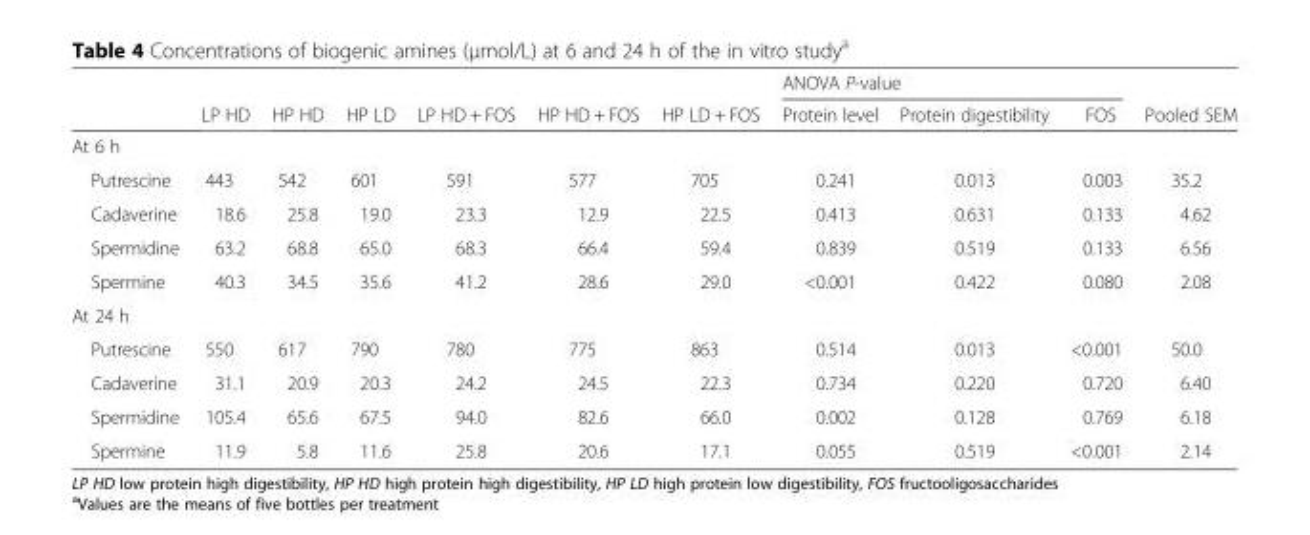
<table><thead><tr><td rowspan="2"></td><td rowspan="2">LP HD</td><td rowspan="2">HP HD</td><td rowspan="2">HP LD</td><td rowspan="2">LP HD + FOS</td><td rowspan="2">HP HD + FOS</td><td rowspan="2">HP LD + FOS</td><td colspan="3">ANOVA P-value</td><td rowspan="2">Pooled SEM</td></tr><tr><td>Protein level</td><td>Protein digestibility</td><td>FOS</td></tr></thead><tbody><tr><td colspan="11">At 6 h</td></tr><tr><td>Putrescine</td><td>443</td><td>542</td><td>601</td><td>591</td><td>577</td><td>705</td><td>0.241</td><td>0.013</td><td>0.003</td><td>35.2</td></tr><tr><td>Cadaverine</td><td>18.6</td><td>25.8</td><td>19.0</td><td>23.3</td><td>12.9</td><td>22.5</td><td>0.413</td><td>0.631</td><td>0.133</td><td>4.62</td></tr><tr><td>Spermidine</td><td>63.2</td><td>68.8</td><td>65.0</td><td>68.3</td><td>66.4</td><td>59.4</td><td>0.839</td><td>0.519</td><td>0.133</td><td>6.56</td></tr><tr><td>Spermine</td><td>40.3</td><td>34.5</td><td>35.6</td><td>41.2</td><td>28.6</td><td>29.0</td><td>&lt;0.001</td><td>0.422</td><td>0.080</td><td>2.08</td></tr><tr><td colspan="11">At 24 h</td></tr><tr><td>Putrescine</td><td>550</td><td>617</td><td>790</td><td>780</td><td>775</td><td>863</td><td>0.514</td><td>0.013</td><td>&lt;0.001</td><td>50.0</td></tr><tr><td>Cadaverine</td><td>31.1</td><td>20.9</td><td>20.3</td><td>24.2</td><td>24.5</td><td>22.3</td><td>0.734</td><td>0.220</td><td>0.720</td><td>6.40</td></tr><tr><td>Spermidine</td><td>105.4</td><td>65.6</td><td>67.5</td><td>94.0</td><td>82.6</td><td>66.0</td><td>0.002</td><td>0.128</td><td>0.769</td><td>6.18</td></tr><tr><td>Spermine</td><td>11.9</td><td>5.8</td><td>11.6</td><td>25.8</td><td>20.6</td><td>17.1</td><td>0.055</td><td>0.519</td><td>&lt;0.001</td><td>2.14</td></tr></tbody></table>